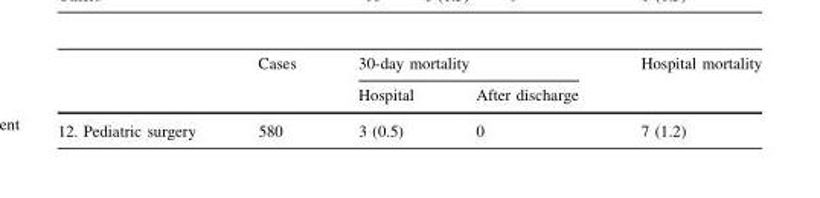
<table><thead><tr><td rowspan="2"></td><td rowspan="2">Cases</td><td colspan="2">30-day mortality</td><td rowspan="2">Hospital mortality</td></tr><tr><td>Hospital</td><td>After discharge</td></tr></thead><tbody><tr><td>12. Pediatric surgery</td><td>580</td><td>3 (0.5)</td><td>0</td><td>7 (1.2)</td></tr></tbody></table>